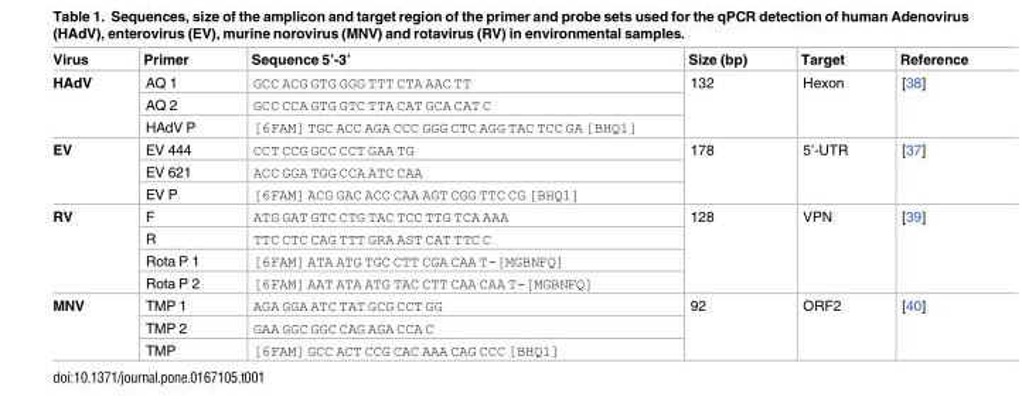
<table><thead><tr><td>Virus</td><td>Primer</td><td>Sequence 5’-3’</td><td>Size (bp)</td><td>Target</td><td>Reference</td></tr></thead><tbody><tr><td rowspan="3">HAdV</td><td>AQ 1</td><td>GCC ACG GTG GGG TTT CTA AAC TT</td><td rowspan="3">132</td><td rowspan="3">Hexon</td><td rowspan="3">[38]</td></tr><tr><td>AQ 2</td><td>GCC CCA GTG GTC TTA CAT GCA CAT C</td></tr><tr><td>HAdV P</td><td>[6FAM] TGC ACC AGA CCC GGG CTC AGG TAC TCC GA [BHQ1]</td></tr><tr><td rowspan="3">EV</td><td>EV 444</td><td>CCT CCG GCC CCT GAA TG</td><td rowspan="3">178</td><td rowspan="3">5’-UTR</td><td rowspan="3">[37]</td></tr><tr><td>EV 621</td><td>ACC GGA TGG CCA ATC CAA</td></tr><tr><td>EV P</td><td>[6FAM] ACG GAC ACC CAA AGT CGG TTC CG [BHQ1]</td></tr><tr><td rowspan="4">RV</td><td>F</td><td>ATG GAT GTC CTG TAC TCC TTG TCA AAA</td><td rowspan="4">128</td><td rowspan="4">VPN</td><td rowspan="4">[39]</td></tr><tr><td>R</td><td>TTC CTC CAG TTT GRA AST CAT TTC C</td></tr><tr><td>Rota P 1</td><td>[6FAM] ATA ATG TGC CTT CGA CAA T-[MGBNFQ]</td></tr><tr><td>Rota P 2</td><td>[6FAM] AAT ATA ATG TAC CTT CAA CAA T-[MGBNFQ]</td></tr><tr><td rowspan="3">MNV</td><td>TMP 1</td><td>AGA GGA ATC TAT GCG CCT GG</td><td rowspan="3">92</td><td rowspan="3">ORF2</td><td rowspan="3">[40]</td></tr><tr><td>TMP 2</td><td>GAA GGC GGC CAG AGA CCA C</td></tr><tr><td>TMP</td><td>[6FAM] GCC ACT CCG CAC AAA CAG CCC [BHQ1]</td></tr></tbody></table>